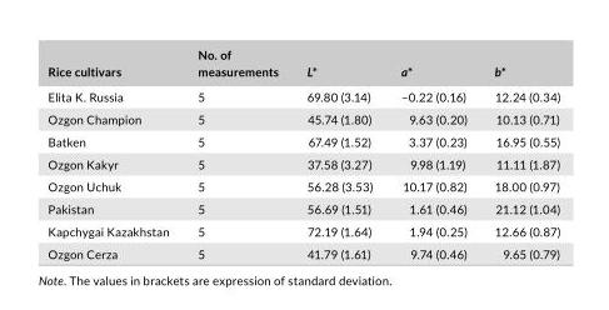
<table><thead><tr><td>Rice cultivars</td><td>No. of measurements</td><td>L*</td><td>a*</td><td>b*</td></tr></thead><tbody><tr><td>Elita K. Russia</td><td>5</td><td>69.80 (3.14)</td><td>–0.22 (0.16)</td><td>12.24 (0.34)</td></tr><tr><td>Ozgon Champion</td><td>5</td><td>45.74 (1.80)</td><td>9.63 (0.20)</td><td>10.13 (0.71)</td></tr><tr><td>Batken</td><td>5</td><td>67.49 (1.52)</td><td>3.37 (0.23)</td><td>16.95 (0.55)</td></tr><tr><td>Ozgon Kakyr</td><td>5</td><td>37.58 (3.27)</td><td>9.98 (1.19)</td><td>11.11 (1.87)</td></tr><tr><td>Ozgon Uchuk</td><td>5</td><td>56.28 (3.53)</td><td>10.17 (0.82)</td><td>18.00 (0.97)</td></tr><tr><td>Pakistan</td><td>5</td><td>56.69 (1.51)</td><td>1.61 (0.46)</td><td>21.12 (1.04)</td></tr><tr><td>Kapchygai Kazakhstan</td><td>5</td><td>72.19 (1.64)</td><td>1.94 (0.25)</td><td>12.66 (0.87)</td></tr><tr><td>Ozgon Cerza</td><td>5</td><td>41.79 (1.61)</td><td>9.74 (0.46)</td><td>9.65 (0.79)</td></tr></tbody></table>